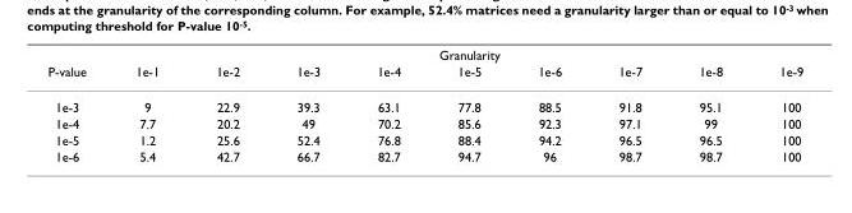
<table><thead><tr><td rowspan="2">P-value</td><td colspan="9">Granularity</td></tr><tr><td>1e-1</td><td>1e-2</td><td>1e-3</td><td>1e-4</td><td>1e-5</td><td>1e-6</td><td>1e-7</td><td>1e-8</td><td>1e-9</td></tr></thead><tbody><tr><td>1e-3</td><td>9</td><td>22.9</td><td>39.3</td><td>63.1</td><td>77.8</td><td>88.5</td><td>91.8</td><td>95.1</td><td>100</td></tr><tr><td>1e-4</td><td>7.7</td><td>20.2</td><td>49</td><td>70.2</td><td>85.6</td><td>92.3</td><td>97.1</td><td>99</td><td>100</td></tr><tr><td>1e-5</td><td>1.2</td><td>25.6</td><td>52.4</td><td>76.8</td><td>88.4</td><td>94.2</td><td>96.5</td><td>96.5</td><td>100</td></tr><tr><td>1e-6</td><td>5.4</td><td>42.7</td><td>66.7</td><td>82.7</td><td>94.7</td><td>96</td><td>98.7</td><td>98.7</td><td>100</td></tr></tbody></table>